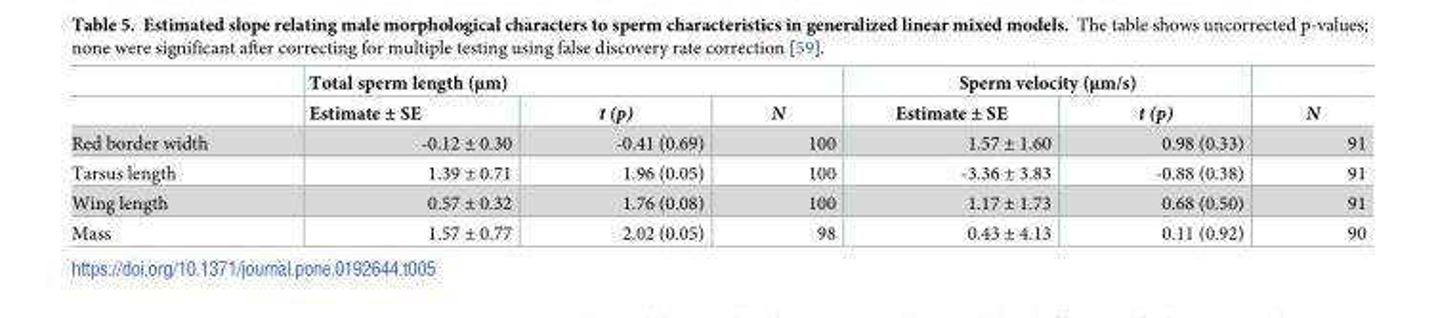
<table><thead><tr><td rowspan="2"></td><td colspan="3">Total sperm length (μm)</td><td colspan="2">Sperm velocity (μm/s)</td><td rowspan="2">N</td></tr><tr><td>Estimate ± SE</td><td>t (p)</td><td>N</td><td>Estimate ± SE</td><td>t (p)</td></tr></thead><tbody><tr><td>Red border width</td><td>-0.12 ± 0.30</td><td>-0.41 (0.69)</td><td>100</td><td>1.57 ± 1.60</td><td>0.98 (0.33)</td><td>91</td></tr><tr><td>Tarsus length</td><td>1.39 ± 0.71</td><td>1.96 (0.05)</td><td>100</td><td>-3.36 ± 3.83</td><td>-0.88 (0.38)</td><td>91</td></tr><tr><td>Wing length</td><td>0.57 ± 0.32</td><td>1.76 (0.08)</td><td>100</td><td>1.17 ± 1.73</td><td>0.68 (0.50)</td><td>91</td></tr><tr><td>Mass</td><td>1.57 ± 0.77</td><td>2.02 (0.05)</td><td>98</td><td>0.43 ± 4.13</td><td>0.11 (0.92)</td><td>90</td></tr></tbody></table>